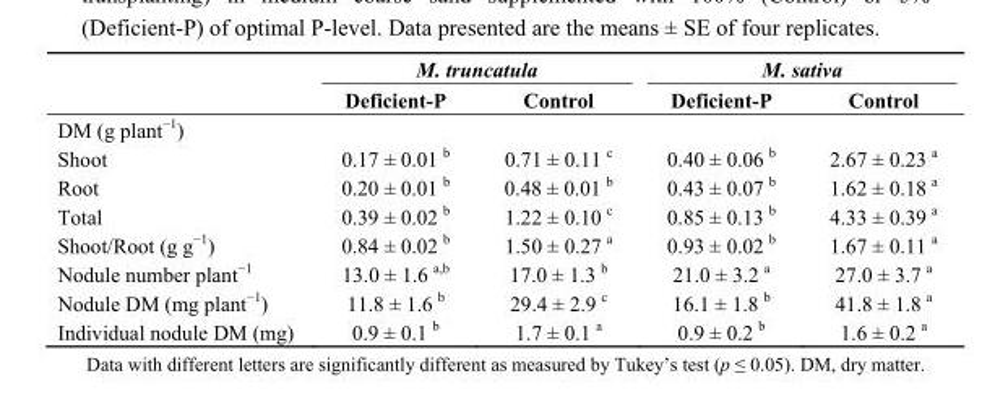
<table><thead><tr><td rowspan="2"></td><td colspan="2">M. truncatula</td><td colspan="2">M. sativa</td></tr><tr><td>Deficient-P</td><td>Control</td><td>Deficient-P</td><td>Control</td></tr></thead><tbody><tr><td colspan="5">DM (g plant<sup>−1</sup>)</td></tr><tr><td>Shoot</td><td>0.17 ± 0.01 <sup>b</sup></td><td>0.71 ± 0.11 <sup>c</sup></td><td>0.40 ± 0.06 <sup>b</sup></td><td>2.67 ± 0.23 <sup>a</sup></td></tr><tr><td>Root</td><td>0.20 ± 0.01 <sup>b</sup></td><td>0.48 ± 0.01 <sup>b</sup></td><td>0.43 ± 0.07 <sup>b</sup></td><td>1.62 ± 0.18 <sup>a</sup></td></tr><tr><td>Total</td><td>0.39 ± 0.02 <sup>b</sup></td><td>1.22 ± 0.10 <sup>c</sup></td><td>0.85 ± 0.13 <sup>b</sup></td><td>4.33 ± 0.39 <sup>a</sup></td></tr><tr><td>Shoot/Root (g g<sup>−1</sup>)</td><td>0.84 ± 0.02 <sup>b</sup></td><td>1.50 ± 0.27 <sup>a</sup></td><td>0.93 ± 0.02 <sup>b</sup></td><td>1.67 ± 0.11 <sup>a</sup></td></tr><tr><td>Nodule number plant<sup>−1</sup></td><td>13.0 ± 1.6 <sup>a,b</sup></td><td>17.0 ± 1.3 <sup>b</sup></td><td>21.0 ± 3.2 <sup>a</sup></td><td>27.0 ± 3.7 <sup>a</sup></td></tr><tr><td>Nodule DM (mg plant<sup>−1</sup>)</td><td>11.8 ± 1.6 <sup>b</sup></td><td>29.4 ± 2.9 <sup>c</sup></td><td>16.1 ± 1.8 <sup>b</sup></td><td>41.8 ± 1.8 <sup>a</sup></td></tr><tr><td>Individual nodule DM (mg)</td><td>0.9 ± 0.1 <sup>b</sup></td><td>1.7 ± 0.1 <sup>a</sup></td><td>0.9 ± 0.2 <sup>b</sup></td><td>1.6 ± 0.2 <sup>a</sup></td></tr></tbody></table>